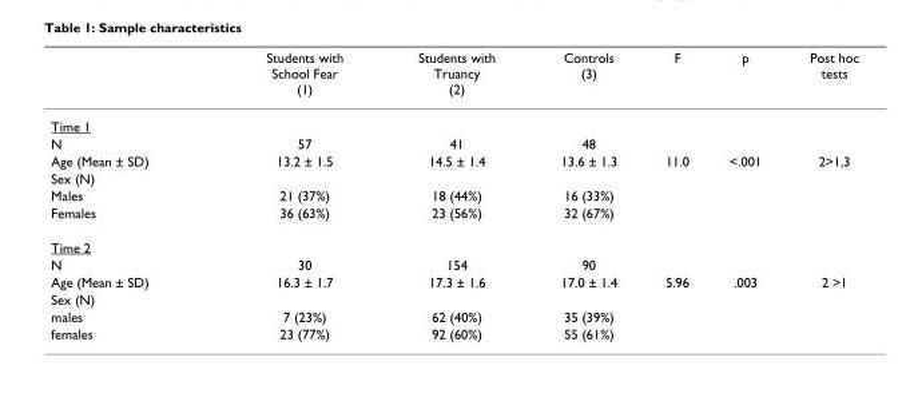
<table><thead><tr><td></td><td>Students with School Fear (1)</td><td>Students with Truancy (2)</td><td>Controls (3)</td><td>F</td><td>p</td><td>Post hoc tests</td></tr></thead><tbody><tr><td colspan="7">Time 1</td></tr><tr><td>N</td><td>57</td><td>41</td><td>48</td><td></td><td></td><td></td></tr><tr><td>Age (Mean ± SD)</td><td>13.2 ± 1.5</td><td>14.5 ± 1.4</td><td>13.6 ± 1.3</td><td>11.0</td><td>&lt;.001</td><td>2&gt;1,3</td></tr><tr><td colspan="7">Sex (N)</td></tr><tr><td>Males</td><td>21 (37%)</td><td>18 (44%)</td><td>16 (33%)</td><td></td><td></td><td></td></tr><tr><td>Females</td><td>36 (63%)</td><td>23 (56%)</td><td>32 (67%)</td><td></td><td></td><td></td></tr><tr><td colspan="7">Time 2</td></tr><tr><td>N</td><td>30</td><td>154</td><td>90</td><td></td><td></td><td></td></tr><tr><td>Age (Mean ± SD)</td><td>16.3 ± 1.7</td><td>17.3 ± 1.6</td><td>17.0 ± 1.4</td><td>5.96</td><td>.003</td><td>2 &gt;1</td></tr><tr><td colspan="7">Sex (N)</td></tr><tr><td>males</td><td>7 (23%)</td><td>62 (40%)</td><td>35 (39%)</td><td></td><td></td><td></td></tr><tr><td>females</td><td>23 (77%)</td><td>92 (60%)</td><td>55 (61%)</td><td></td><td></td><td></td></tr></tbody></table>